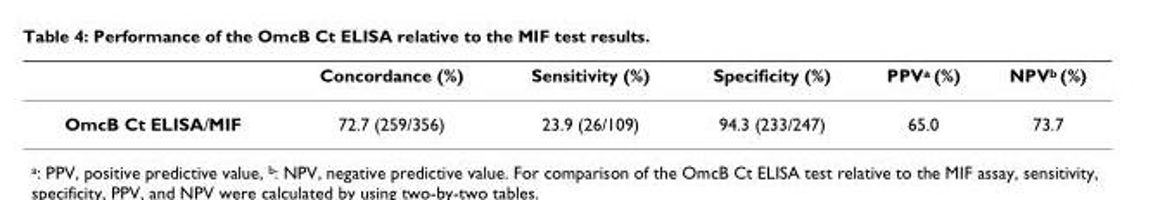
<table><thead><tr><td></td><td>Concordance (%)</td><td>Sensitivity (%)</td><td>Specificity (%)</td><td>PPV<sup>a</sup> (%)</td><td>NPV<sup>b</sup> (%)</td></tr></thead><tbody><tr><td>OmcB Ct ELISA/MIF</td><td>72.7 (259/356)</td><td>23.9 (26/109)</td><td>94.3 (233/247)</td><td>65.0</td><td>73.7</td></tr></tbody></table>